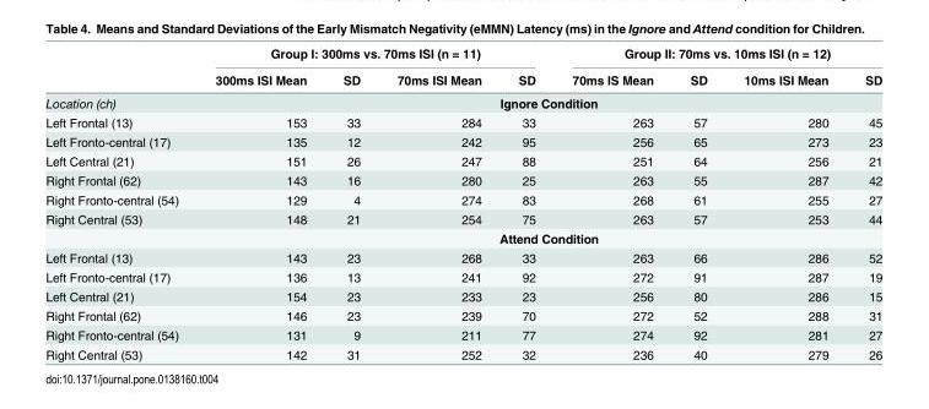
<table><thead><tr><td rowspan="2"></td><td colspan="4">Group I: 300ms vs. 70ms ISI (n = 11)</td><td colspan="4">Group II: 70ms vs. 10ms ISI (n = 12)</td></tr><tr><td>300ms ISI Mean</td><td>SD</td><td>70ms ISI Mean</td><td>SD</td><td>70ms IS Mean</td><td>SD</td><td>10ms ISI Mean</td><td>SD</td></tr></thead><tbody><tr><td>Location (ch)</td><td colspan="8">Ignore Condition</td></tr><tr><td>Left Frontal (13)</td><td>153</td><td>33</td><td>284</td><td>33</td><td>263</td><td>57</td><td>280</td><td>45</td></tr><tr><td>Left Fronto-central (17)</td><td>135</td><td>12</td><td>242</td><td>95</td><td>256</td><td>65</td><td>273</td><td>23</td></tr><tr><td>Left Central (21)</td><td>151</td><td>26</td><td>247</td><td>88</td><td>251</td><td>64</td><td>256</td><td>21</td></tr><tr><td>Right Frontal (62)</td><td>143</td><td>16</td><td>280</td><td>25</td><td>263</td><td>55</td><td>287</td><td>42</td></tr><tr><td>Right Fronto-central (54)</td><td>129</td><td>4</td><td>274</td><td>83</td><td>268</td><td>61</td><td>255</td><td>27</td></tr><tr><td rowspan="2">Right Central (53)</td><td>148</td><td>21</td><td>254</td><td>75</td><td>263</td><td>57</td><td>253</td><td>44</td></tr><tr><td colspan="8">Attend Condition</td></tr><tr><td>Left Frontal (13)</td><td>143</td><td>23</td><td>268</td><td>33</td><td>263</td><td>66</td><td>286</td><td>52</td></tr><tr><td>Left Fronto-central (17)</td><td>136</td><td>13</td><td>241</td><td>92</td><td>272</td><td>91</td><td>287</td><td>19</td></tr><tr><td>Left Central (21)</td><td>154</td><td>23</td><td>233</td><td>23</td><td>256</td><td>80</td><td>286</td><td>15</td></tr><tr><td>Right Frontal (62)</td><td>146</td><td>23</td><td>239</td><td>70</td><td>272</td><td>52</td><td>288</td><td>31</td></tr><tr><td>Right Fronto-central (54)</td><td>131</td><td>9</td><td>211</td><td>77</td><td>274</td><td>92</td><td>281</td><td>27</td></tr><tr><td>Right Central (53)</td><td>142</td><td>31</td><td>252</td><td>32</td><td>236</td><td>40</td><td>279</td><td>26</td></tr></tbody></table>